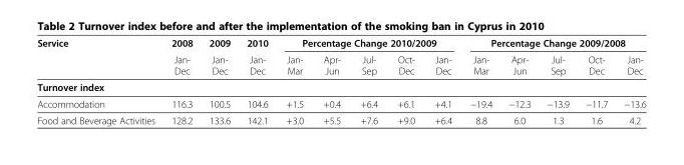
<table><thead><tr><td rowspan="2">Service</td><td rowspan="2">2008 Jan- Dec</td><td rowspan="2">2009 Jan- Dec</td><td rowspan="2">2010 Jan- Dec</td><td colspan="5">Percentage Change 2010/2009</td><td colspan="5">Percentage Change 2009/2008</td></tr><tr><td>Jan- Mar</td><td>Apr- Jun</td><td>Jul- Sep</td><td>Oct- Dec</td><td>Jan- Dec</td><td>Jan- Mar</td><td>Apr- Jun</td><td>Jul- Sep</td><td>Oct- Dec</td><td>Jan- Dec</td></tr></thead><tbody><tr><td colspan="14">Turnover index</td></tr><tr><td>Accommodation</td><td>116.3</td><td>100.5</td><td>104.6</td><td>+1.5</td><td>+0.4</td><td>+6.4</td><td>+6.1</td><td>+4.1</td><td>−19.4</td><td>−12.3</td><td>−13.9</td><td>−11.7</td><td>−13.6</td></tr><tr><td>Food and Beverage Activities</td><td>128.2</td><td>133.6</td><td>142.1</td><td>+3.0</td><td>+5.5</td><td>+7.6</td><td>+9.0</td><td>+6.4</td><td>8.8</td><td>6.0</td><td>1.3</td><td>1.6</td><td>4.2</td></tr></tbody></table>